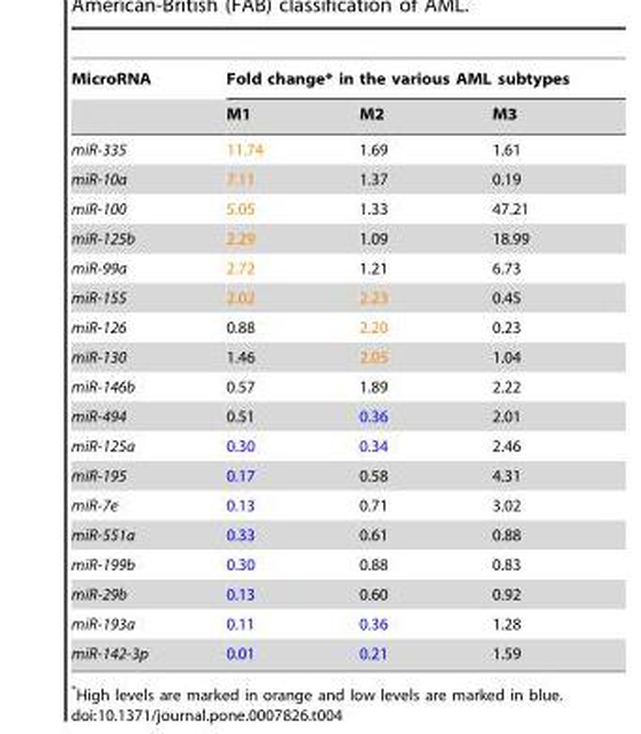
<table><thead><tr><td rowspan="2">MicroRNA</td><td colspan="3">Fold change* in the various AML subtypes</td></tr><tr><td>M1</td><td>M2</td><td>M3</td></tr></thead><tbody><tr><td>miR-335</td><td>11.74</td><td>1.69</td><td>1.61</td></tr><tr><td>miR-10a</td><td>7.11</td><td>1.37</td><td>0.19</td></tr><tr><td>miR-100</td><td>5.05</td><td>1.33</td><td>47.21</td></tr><tr><td>miR-125b</td><td>2.29</td><td>1.09</td><td>18.99</td></tr><tr><td>miR-99a</td><td>2.72</td><td>1.21</td><td>6.73</td></tr><tr><td>miR-155</td><td>2.02</td><td>2.23</td><td>0.45</td></tr><tr><td>miR-126</td><td>0.88</td><td>2.20</td><td>0.23</td></tr><tr><td>miR-130</td><td>1.46</td><td>2.05</td><td>1.04</td></tr><tr><td>miR-146b</td><td>0.57</td><td>1.89</td><td>2.22</td></tr><tr><td>miR-494</td><td>0.51</td><td>0.36</td><td>2.01</td></tr><tr><td>miR-125a</td><td>0.30</td><td>0.34</td><td>2.46</td></tr><tr><td>miR-195</td><td>0.17</td><td>0.58</td><td>4.31</td></tr><tr><td>miR-7e</td><td>0.13</td><td>0.71</td><td>3.02</td></tr><tr><td>miR-551a</td><td>0.33</td><td>0.61</td><td>0.88</td></tr><tr><td>miR-199b</td><td>0.30</td><td>0.88</td><td>0.83</td></tr><tr><td>miR-29b</td><td>0.13</td><td>0.60</td><td>0.92</td></tr><tr><td>miR-193a</td><td>0.11</td><td>0.36</td><td>1.28</td></tr><tr><td>miR-142-3p</td><td>0.01</td><td>0.21</td><td>1.59</td></tr></tbody></table>